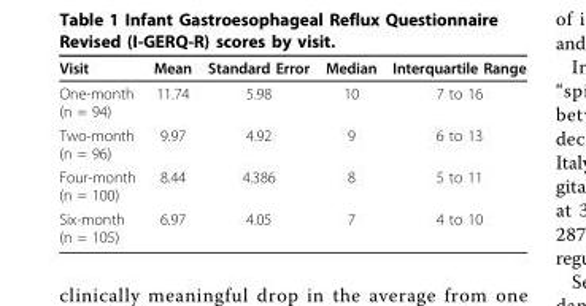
<table><thead><tr><td>Visit</td><td>Mean</td><td>Standard Error</td><td>Median</td><td>Interquartile Range</td></tr></thead><tbody><tr><td>One-month (n = 94)</td><td>11.74</td><td>5.98</td><td>10</td><td>7 to 16</td></tr><tr><td>Two-month (n = 96)</td><td>9.97</td><td>4.92</td><td>9</td><td>6 to 13</td></tr><tr><td>Four-month (n = 100)</td><td>8.44</td><td>4.386</td><td>8</td><td>5 to 11</td></tr><tr><td>Six-month (n = 105)</td><td>6.97</td><td>4.05</td><td>7</td><td>4 to 10</td></tr></tbody></table>